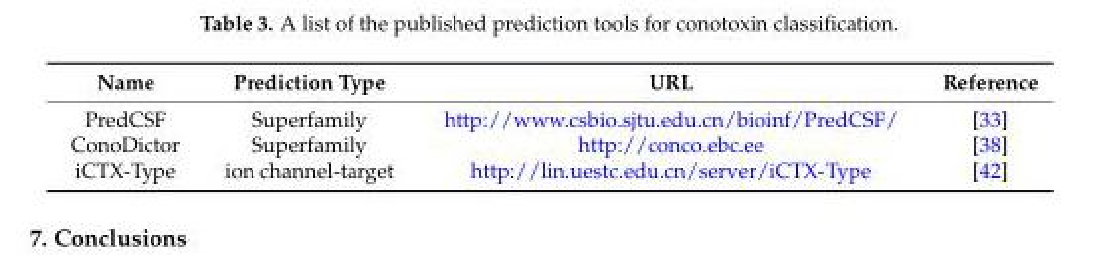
<table><thead><tr><td>Name</td><td>Prediction Type</td><td>URL</td><td>Reference</td></tr></thead><tbody><tr><td>PredCSF</td><td>Superfamily</td><td>http://www.csbio.sjtu.edu.cn/bioinf/PredCSF/</td><td>[33]</td></tr><tr><td>ConoDictor</td><td>Superfamily</td><td>http://conco.ebc.ee</td><td>[38]</td></tr><tr><td>iCTX-Type</td><td>ion channel-target</td><td>http://lin.uestc.edu.cn/server/iCTX-Type</td><td>[42]</td></tr></tbody></table>